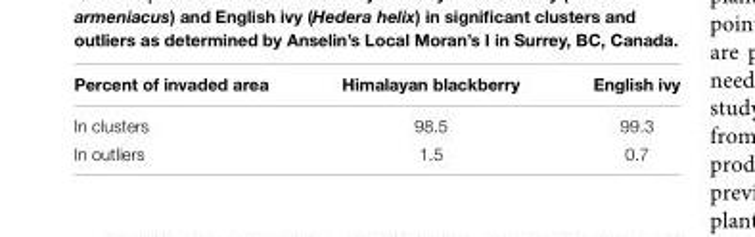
<table><thead><tr><td>Percent of invaded area</td><td>Himalayan blackberry</td><td>English ivy</td></tr></thead><tbody><tr><td>In clusters</td><td>98.5</td><td>99.3</td></tr><tr><td>In outliers</td><td>1.5</td><td>0.7</td></tr></tbody></table>